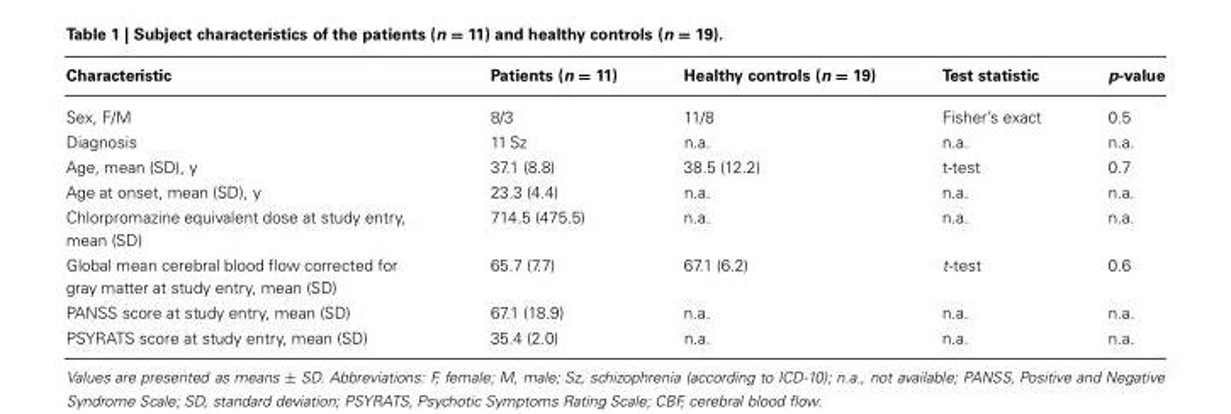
<table><thead><tr><td>Characteristic</td><td>Patients (n = 11)</td><td>Healthy controls (n = 19)</td><td>Test statistic</td><td>p-value</td></tr></thead><tbody><tr><td>Sex, F/M</td><td>8/3</td><td>11/8</td><td>Fisher’s exact</td><td>0.5</td></tr><tr><td>Diagnosis</td><td>11 Sz</td><td>n.a.</td><td>n.a.</td><td>n.a.</td></tr><tr><td>Age, mean (SD), y</td><td>37.1 (8.8)</td><td>38.5 (12.2)</td><td>t-test</td><td>0.7</td></tr><tr><td>Age at onset, mean (SD), y</td><td>23.3 (4.4)</td><td>n.a.</td><td>n.a.</td><td>n.a.</td></tr><tr><td>Chlorpromazine equivalent dose at study entry, mean (SD)</td><td>714.5 (475.5)</td><td>n.a.</td><td>n.a.</td><td>n.a.</td></tr><tr><td>Global mean cerebral blood flow corrected for gray matter at study entry, mean (SD)</td><td>65.7 (7.7)</td><td>67.1 (6.2)</td><td>t-test</td><td>0.6</td></tr><tr><td>PANSS score at study entry, mean (SD)</td><td>67.1 (18.9)</td><td>n.a.</td><td>n.a.</td><td>n.a.</td></tr><tr><td>PSYRATS score at study entry, mean (SD)</td><td>35.4 (2.0)</td><td>n.a.</td><td>n.a.</td><td>n.a.</td></tr></tbody></table>